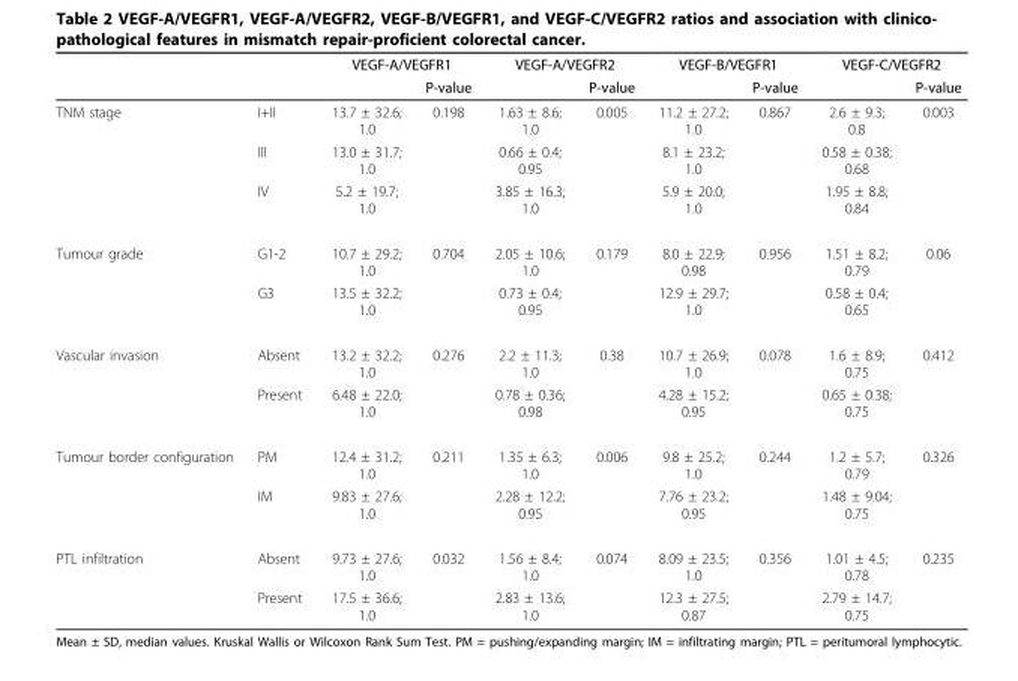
<table><thead><tr><td rowspan="2"></td><td rowspan="2"></td><td colspan="2">VEGF-A/VEGFR1</td><td colspan="2">VEGF-A/VEGFR2</td><td colspan="2">VEGF-B/VEGFR1</td><td colspan="2">VEGF-C/VEGFR2</td></tr><tr><td></td><td>P-value</td><td></td><td>P-value</td><td></td><td>P-value</td><td></td><td>P-value</td></tr></thead><tbody><tr><td rowspan="3">TNM stage</td><td>I+II</td><td>13.7 ± 32.6; 1.0</td><td>0.198</td><td>1.63 ± 8.6; 1.0</td><td>0.005</td><td>11.2 ± 27.2; 1.0</td><td>0.867</td><td>2.6 ± 9.3; 0.8</td><td>0.003</td></tr><tr><td>III</td><td>13.0 ± 31.7; 1.0</td><td></td><td>0.66 ± 0.4; 0.95</td><td></td><td>8.1 ± 23.2; 1.0</td><td></td><td>0.58 ± 0.38; 0.68</td><td></td></tr><tr><td>IV</td><td>5.2 ± 19.7; 1.0</td><td></td><td>3.85 ± 16.3; 1.0</td><td></td><td>5.9 ± 20.0; 1.0</td><td></td><td>1.95 ± 8.8; 0.84</td><td></td></tr><tr><td rowspan="2">Tumour grade</td><td>G1-2</td><td>10.7 ± 29.2; 1.0</td><td>0.704</td><td>2.05 ± 10.6; 1.0</td><td>0.179</td><td>8.0 ± 22.9; 0.98</td><td>0.956</td><td>1.51 ± 8.2; 0.79</td><td>0.06</td></tr><tr><td>G3</td><td>13.5 ± 32.2; 1.0</td><td></td><td>0.73 ± 0.4; 0.95</td><td></td><td>12.9 ± 29.7; 1.0</td><td></td><td>0.58 ± 0.4; 0.65</td><td></td></tr><tr><td rowspan="2">Vascular invasion</td><td>Absent</td><td>13.2 ± 32.2; 1.0</td><td>0.276</td><td>2.2 ± 11.3; 1.0</td><td>0.38</td><td>10.7 ± 26.9; 1.0</td><td>0.078</td><td>1.6 ± 8.9; 0.75</td><td>0.412</td></tr><tr><td>Present</td><td>6.48 ± 22.0; 1.0</td><td></td><td>0.78 ± 0.36; 0.98</td><td></td><td>4.28 ± 15.2; 0.95</td><td></td><td>0.65 ± 0.38; 0.75</td><td></td></tr><tr><td rowspan="2">Tumour border configuration</td><td>PM</td><td>12.4 ± 31.2; 1.0</td><td>0.211</td><td>1.35 ± 6.3; 1.0</td><td>0.006</td><td>9.8 ± 25.2; 1.0</td><td>0.244</td><td>1.2 ± 5.7; 0.79</td><td>0.326</td></tr><tr><td>IM</td><td>9.83 ± 27.6; 1.0</td><td></td><td>2.28 ± 12.2; 0.95</td><td></td><td>7.76 ± 23.2; 0.95</td><td></td><td>1.48 ± 9.04; 0.75</td><td></td></tr><tr><td rowspan="2">PTL infiltration</td><td>Absent</td><td>9.73 ± 27.6; 1.0</td><td>0.032</td><td>1.56 ± 8.4; 1.0</td><td>0.074</td><td>8.09 ± 23.5; 1.0</td><td>0.356</td><td>1.01 ± 4.5; 0.78</td><td>0.235</td></tr><tr><td>Present</td><td>17.5 ± 36.6; 1.0</td><td></td><td>2.83 ± 13.6; 1.0</td><td></td><td>12.3 ± 27.5; 0.87</td><td></td><td>2.79 ± 14.7; 0.75</td><td></td></tr></tbody></table>